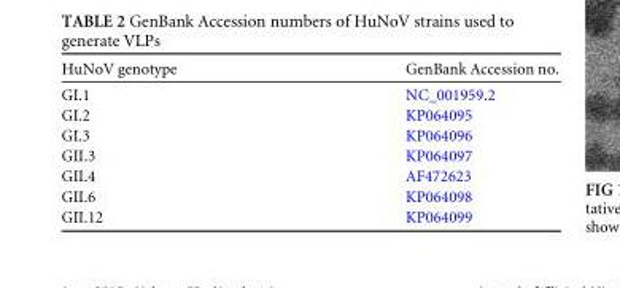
<table><thead><tr><td>HuNoV genotype</td><td>GenBank Accession no.</td></tr></thead><tbody><tr><td>GI.1</td><td>NC_001959.2</td></tr><tr><td>GI.2</td><td>KP064095</td></tr><tr><td>GI.3</td><td>KP064096</td></tr><tr><td>GII.3</td><td>KP064097</td></tr><tr><td>GII.4</td><td>AF472623</td></tr><tr><td>GII.6</td><td>KP064098</td></tr><tr><td>GII.12</td><td>KP064099</td></tr></tbody></table>